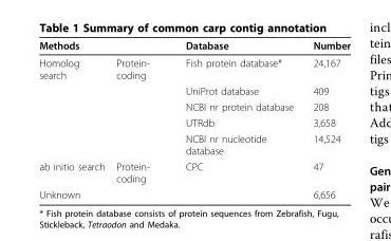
<table><thead><tr><td>Methods</td><td></td><td>Database</td><td>Number</td></tr></thead><tbody><tr><td rowspan="5">Homolog search</td><td>Protein- coding</td><td>Fish protein database*</td><td>24,167</td></tr><tr><td></td><td>UniProt database</td><td>409</td></tr><tr><td></td><td>NCBI nr protein database</td><td>208</td></tr><tr><td></td><td>UTRdb</td><td>3,658</td></tr><tr><td></td><td>NCBI nr nucleotide database</td><td>14,524</td></tr><tr><td>ab initio search</td><td>Protein- coding</td><td>CPC</td><td>47</td></tr><tr><td>Unknown</td><td></td><td></td><td>6,656</td></tr></tbody></table>